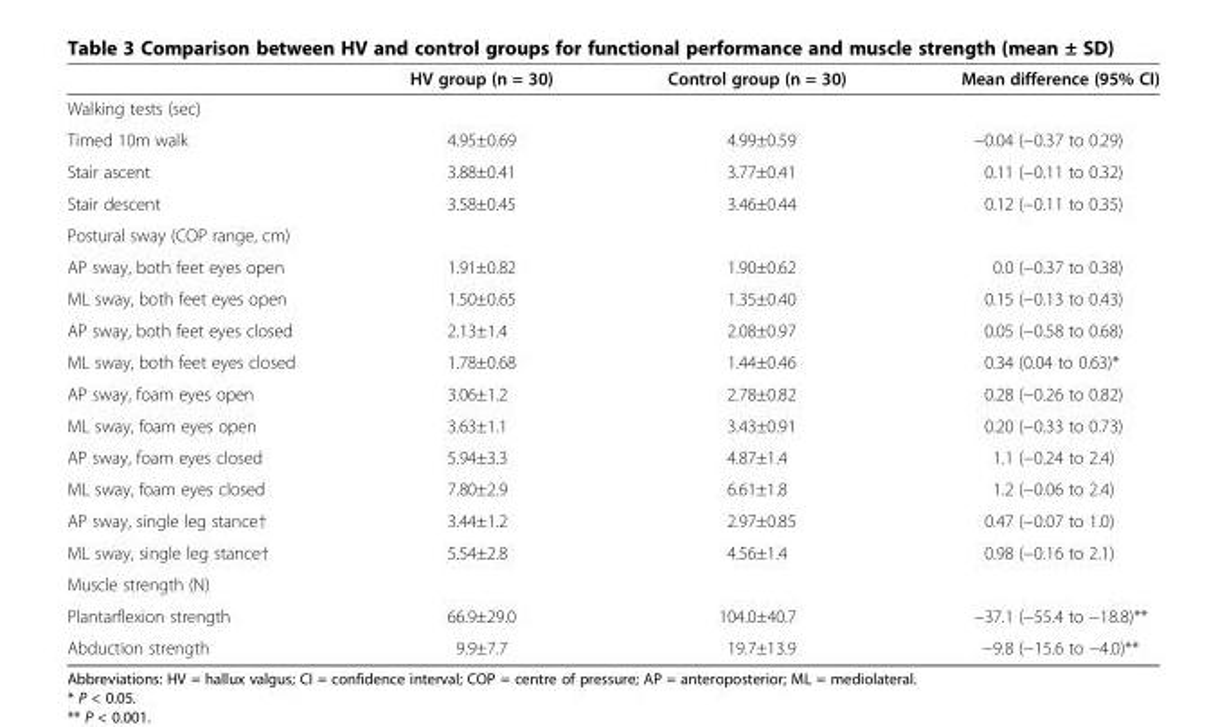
<table><thead><tr><td></td><td>HV group (n = 30)</td><td>Control group (n = 30)</td><td>Mean difference (95% CI)</td></tr></thead><tbody><tr><td colspan="4">Walking tests (sec)</td></tr><tr><td>Timed 10m walk</td><td>4.95±0.69</td><td>4.99±0.59</td><td>−0.04 (−0.37 to 0.29)</td></tr><tr><td>Stair ascent</td><td>3.88±0.41</td><td>3.77±0.41</td><td>0.11 (−0.11 to 0.32)</td></tr><tr><td>Stair descent</td><td>3.58±0.45</td><td>3.46±0.44</td><td>0.12 (−0.11 to 0.35)</td></tr><tr><td colspan="4">Postural sway (COP range, cm)</td></tr><tr><td>AP sway, both feet eyes open</td><td>1.91±0.82</td><td>1.90±0.62</td><td>0.0 (−0.37 to 0.38)</td></tr><tr><td>ML sway, both feet eyes open</td><td>1.50±0.65</td><td>1.35±0.40</td><td>0.15 (−0.13 to 0.43)</td></tr><tr><td>AP sway, both feet eyes closed</td><td>2.13±1.4</td><td>2.08±0.97</td><td>0.05 (−0.58 to 0.68)</td></tr><tr><td>ML sway, both feet eyes closed</td><td>1.78±0.68</td><td>1.44±0.46</td><td>0.34 (0.04 to 0.63)*</td></tr><tr><td>AP sway, foam eyes open</td><td>3.06±1.2</td><td>2.78±0.82</td><td>0.28 (−0.26 to 0.82)</td></tr><tr><td>ML sway, foam eyes open</td><td>3.63±1.1</td><td>3.43±0.91</td><td>0.20 (−0.33 to 0.73)</td></tr><tr><td>AP sway, foam eyes closed</td><td>5.94±3.3</td><td>4.87±1.4</td><td>1.1 (−0.24 to 2.4)</td></tr><tr><td>ML sway, foam eyes closed</td><td>7.80±2.9</td><td>6.61±1.8</td><td>1.2 (−0.06 to 2.4)</td></tr><tr><td>AP sway, single leg stance†</td><td>3.44±1.2</td><td>2.97±0.85</td><td>0.47 (−0.07 to 1.0)</td></tr><tr><td>ML sway, single leg stance†</td><td>5.54±2.8</td><td>4.56±1.4</td><td>0.98 (−0.16 to 2.1)</td></tr><tr><td colspan="4">Muscle strength (N)</td></tr><tr><td>Plantarflexion strength</td><td>66.9±29.0</td><td>104.0±40.7</td><td>−37.1 (−55.4 to −18.8)**</td></tr><tr><td>Abduction strength</td><td>9.9±7.7</td><td>19.7±13.9</td><td>−9.8 (−15.6 to −4.0)**</td></tr></tbody></table>